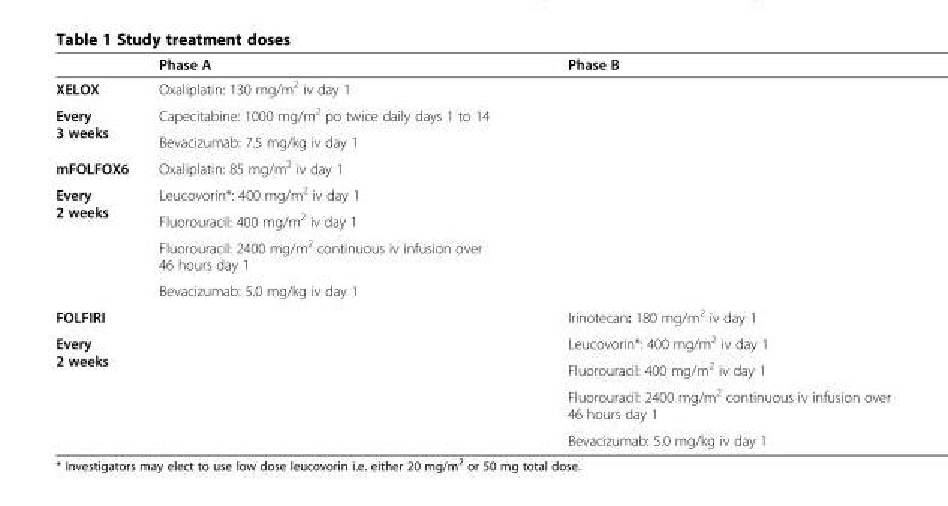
<table><thead><tr><td></td><td>Phase A</td><td>Phase B</td></tr></thead><tbody><tr><td>XELOX</td><td>Oxaliplatin: 130 mg/m<sup>2</sup> iv day 1</td><td rowspan="3"></td></tr><tr><td rowspan="2">Every 3 weeks</td><td>Capecitabine: 1000 mg/m<sup>2</sup> po twice daily days 1 to 14</td></tr><tr><td>Bevacizumab: 7.5 mg/kg iv day 1</td></tr><tr><td>mFOLFOX6</td><td>Oxaliplatin: 85 mg/m<sup>2</sup> iv day 1</td><td rowspan="5"></td></tr><tr><td rowspan="4">Every 2 weeks</td><td>Leucovorin*: 400 mg/m<sup>2</sup> iv day 1</td></tr><tr><td>Fluorouracil: 400 mg/m<sup>2</sup> iv day 1</td></tr><tr><td>Fluorouracil: 2400 mg/m<sup>2</sup> continuous iv infusion over 46 hours day 1</td></tr><tr><td>Bevacizumab: 5.0 mg/kg iv day 1</td></tr><tr><td>FOLFIRI</td><td rowspan="4"></td><td>Irinotecan: 180 mg/m<sup>2</sup> iv day 1</td></tr><tr><td rowspan="4">Every 2 weeks</td><td>Leucovorin*: 400 mg/m<sup>2</sup> iv day 1</td></tr><tr><td>Fluorouracil: 400 mg/m<sup>2</sup> iv day 1</td></tr><tr><td>Fluorouracil: 2400 mg/m<sup>2</sup> continuous iv infusion over 46 hours day 1</td></tr><tr><td></td><td>Bevacizumab: 5.0 mg/kg iv day 1</td></tr></tbody></table>